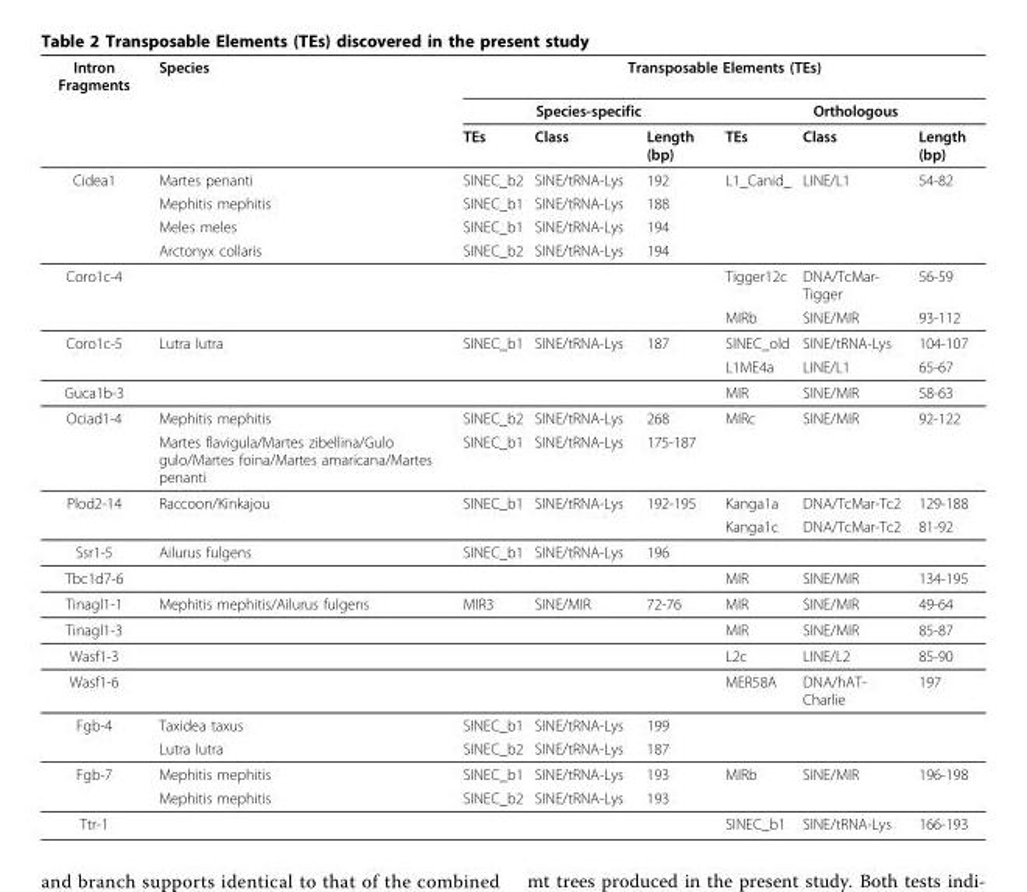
<table><thead><tr><td rowspan="3">Intron Fragments</td><td rowspan="3">Species</td><td colspan="6">Transposable Elements (TEs)</td></tr><tr><td colspan="3">Species-specific</td><td colspan="3">Orthologous</td></tr><tr><td>TEs</td><td>Class</td><td>Length (bp)</td><td>TEs</td><td>Class</td><td>Length (bp)</td></tr></thead><tbody><tr><td rowspan="4">Cidea1</td><td>Martes penanti</td><td>SINEC_b2</td><td>SINE/tRNA-Lys</td><td>192</td><td>L1_Canid_</td><td>LINE/L1</td><td>54-82</td></tr><tr><td>Mephitis mephitis</td><td>SINEC_b1</td><td>SINE/tRNA-Lys</td><td>188</td><td></td><td></td><td></td></tr><tr><td>Meles meles</td><td>SINEC_b1</td><td>SINE/tRNA-Lys</td><td>194</td><td></td><td></td><td></td></tr><tr><td>Arctonyx collaris</td><td>SINEC_b2</td><td>SINE/tRNA-Lys</td><td>194</td><td></td><td></td><td></td></tr><tr><td rowspan="2">Coro1c-4</td><td></td><td></td><td></td><td></td><td>Tigger12c</td><td>DNA/TcMar- Tigger</td><td>56-59</td></tr><tr><td></td><td></td><td></td><td></td><td>MIRb</td><td>SINE/MIR</td><td>93-112</td></tr><tr><td rowspan="2">Coro1c-5</td><td>Lutra lutra</td><td>SINEC_b1</td><td>SINE/tRNA-Lys</td><td>187</td><td>SINEC_old</td><td>SINE/tRNA-Lys</td><td>104-107</td></tr><tr><td></td><td></td><td></td><td></td><td>L1ME4a</td><td>LINE/L1</td><td>65-67</td></tr><tr><td>Guca1b-3</td><td></td><td></td><td></td><td></td><td>MIR</td><td>SINE/MIR</td><td>58-63</td></tr><tr><td rowspan="2">Ociad1-4</td><td>Mephitis mephitis</td><td>SINEC_b2</td><td>SINE/tRNA-Lys</td><td>268</td><td>MIRc</td><td>SINE/MIR</td><td>92-122</td></tr><tr><td>Martes flavigula/Martes zibellina/Gulo gulo/Martes foina/Martes amaricana/Martes penanti</td><td>SINEC_b1</td><td>SINE/tRNA-Lys</td><td>175-187</td><td></td><td></td><td></td></tr><tr><td rowspan="2">Plod2-14</td><td>Raccoon/Kinkajou</td><td>SINEC_b1</td><td>SINE/tRNA-Lys</td><td>192-195</td><td>Kanga1a</td><td>DNA/TcMar-Tc2</td><td>129-188</td></tr><tr><td></td><td></td><td></td><td></td><td>Kanga1c</td><td>DNA/TcMar-Tc2</td><td>81-92</td></tr><tr><td>Ssr1-5</td><td>Ailurus fulgens</td><td>SINEC_b1</td><td>SINE/tRNA-Lys</td><td>196</td><td></td><td></td><td></td></tr><tr><td>Tbc1d7-6</td><td></td><td></td><td></td><td></td><td>MIR</td><td>SINE/MIR</td><td>134-195</td></tr><tr><td>Tinagl1-1</td><td>Mephitis mephitis/Ailurus fulgens</td><td>MIR3</td><td>SINE/MIR</td><td>72-76</td><td>MIR</td><td>SINE/MIR</td><td>49-64</td></tr><tr><td>Tinagl1-3</td><td></td><td></td><td></td><td></td><td>MIR</td><td>SINE/MIR</td><td>85-87</td></tr><tr><td>Wasf1-3</td><td></td><td></td><td></td><td></td><td>L2c</td><td>LINE/L2</td><td>85-90</td></tr><tr><td>Wasf1-6</td><td></td><td></td><td></td><td></td><td>MER58A</td><td>DNA/hAT- Charlie</td><td>197</td></tr><tr><td rowspan="2">Fgb-4</td><td>Taxidea taxus</td><td>SINEC_b1</td><td>SINE/tRNA-Lys</td><td>199</td><td></td><td></td><td></td></tr><tr><td>Lutra lutra</td><td>SINEC_b2</td><td>SINE/tRNA-Lys</td><td>187</td><td></td><td></td><td></td></tr><tr><td rowspan="2">Fgb-7</td><td>Mephitis mephitis</td><td>SINEC_b1</td><td>SINE/tRNA-Lys</td><td>193</td><td>MIRb</td><td>SINE/MIR</td><td>196-198</td></tr><tr><td>Mephitis mephitis</td><td>SINEC_b2</td><td>SINE/tRNA-Lys</td><td>193</td><td></td><td></td><td></td></tr><tr><td>Ttr-1</td><td></td><td></td><td></td><td></td><td>SINEC_b1</td><td>SINE/tRNA-Lys</td><td>166-193</td></tr></tbody></table>